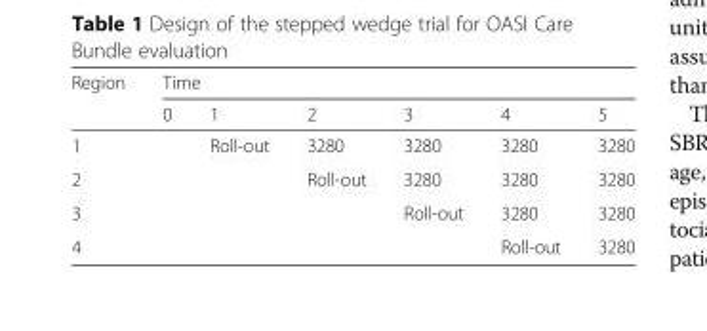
<table><thead><tr><td rowspan="2">Region</td><td colspan="6">Time</td></tr><tr><td>0</td><td>1</td><td>2</td><td>3</td><td>4</td><td>5</td></tr></thead><tbody><tr><td>1</td><td></td><td>Roll-out</td><td>3280</td><td>3280</td><td>3280</td><td>3280</td></tr><tr><td>2</td><td></td><td></td><td>Roll-out</td><td>3280</td><td>3280</td><td>3280</td></tr><tr><td>3</td><td></td><td></td><td></td><td>Roll-out</td><td>3280</td><td>3280</td></tr><tr><td>4</td><td></td><td></td><td></td><td></td><td>Roll-out</td><td>3280</td></tr></tbody></table>